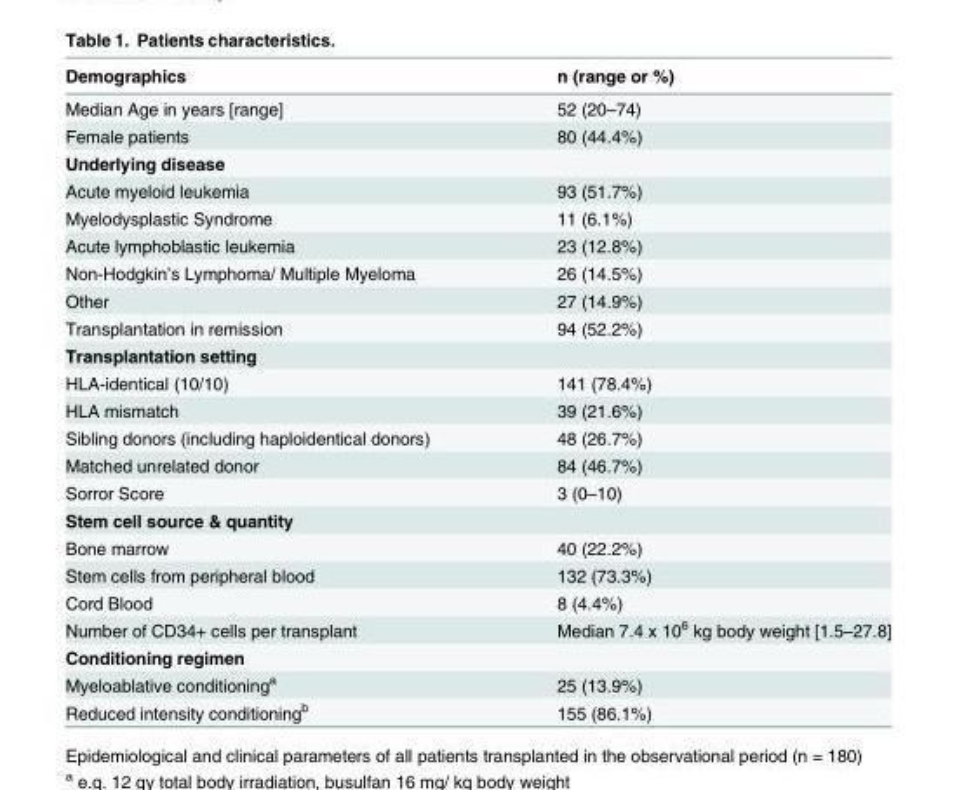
<table><thead><tr><td>Demographics</td><td>n (range or %)</td></tr></thead><tbody><tr><td>Median Age in years [range]</td><td>52 (20–74)</td></tr><tr><td>Female patients</td><td>80 (44.4%)</td></tr><tr><td colspan="2">Underlying disease</td></tr><tr><td>Acute myeloid leukemia</td><td>93 (51.7%)</td></tr><tr><td>Myelodysplastic Syndrome</td><td>11 (6.1%)</td></tr><tr><td>Acute lymphoblastic leukemia</td><td>23 (12.8%)</td></tr><tr><td>Non-Hodgkin’s Lymphoma/ Multiple Myeloma</td><td>26 (14.5%)</td></tr><tr><td>Other</td><td>27 (14.9%)</td></tr><tr><td>Transplantation in remission</td><td>94 (52.2%)</td></tr><tr><td colspan="2">Transplantation setting</td></tr><tr><td>HLA-identical (10/10)</td><td>141 (78.4%)</td></tr><tr><td>HLA mismatch</td><td>39 (21.6%)</td></tr><tr><td>Sibling donors (including haploidentical donors)</td><td>48 (26.7%)</td></tr><tr><td>Matched unrelated donor</td><td>84 (46.7%)</td></tr><tr><td>Sorror Score</td><td>3 (0–10)</td></tr><tr><td colspan="2">Stem cell source &amp; quantity</td></tr><tr><td>Bone marrow</td><td>40 (22.2%)</td></tr><tr><td>Stem cells from peripheral blood</td><td>132 (73.3%)</td></tr><tr><td>Cord Blood</td><td>8 (4.4%)</td></tr><tr><td>Number of CD34+ cells per transplant</td><td>Median 7.4 x 10<sup>6</sup> kg body weight [1.5–27.8]</td></tr><tr><td colspan="2">Conditioning regimen</td></tr><tr><td>Myeloablative conditioning<sup>a</sup></td><td>25 (13.9%)</td></tr><tr><td>Reduced intensity conditioning<sup>b</sup></td><td>155 (86.1%)</td></tr></tbody></table>